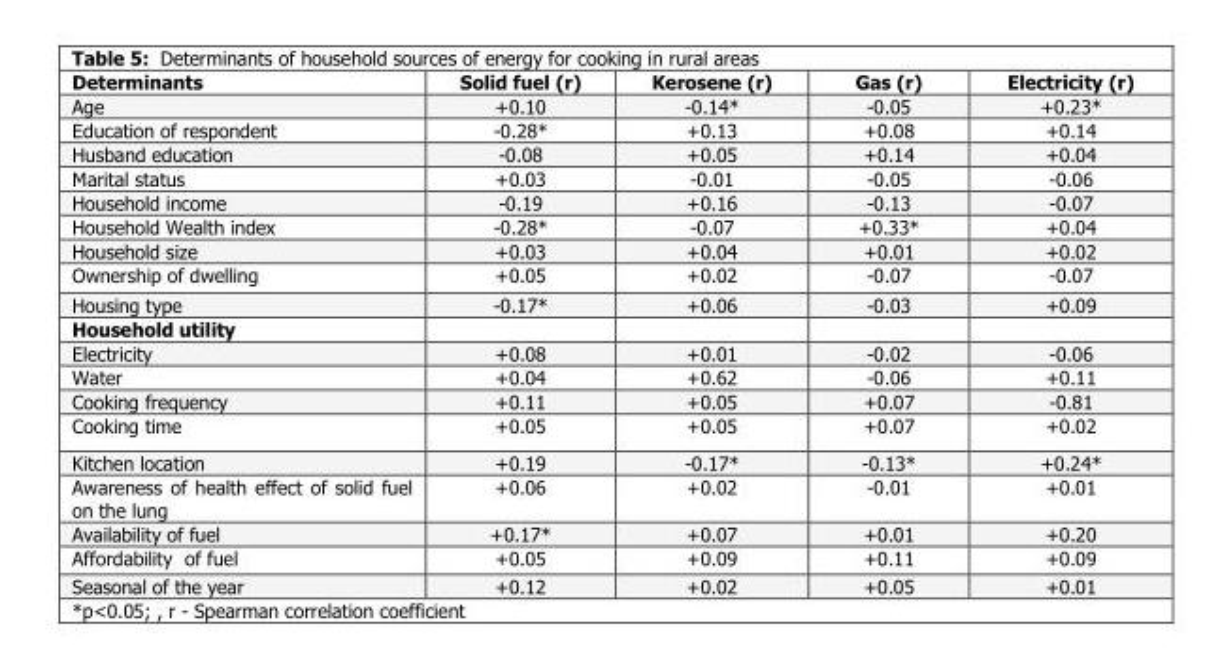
<table><thead><tr><td>Determinants</td><td>Solid fuel (r)</td><td>Kerosene (r)</td><td>Gas (r)</td><td>Electricity (r)</td></tr></thead><tbody><tr><td>Age</td><td>+0.10</td><td>-0.14*</td><td>-0.05</td><td>+0.23*</td></tr><tr><td>Education of respondent</td><td>-0.28*</td><td>+0.13</td><td>+0.08</td><td>+0.14</td></tr><tr><td>Husband education</td><td>-0.08</td><td>+0.05</td><td>+0.14</td><td>+0.04</td></tr><tr><td>Marital status</td><td>+0.03</td><td>-0.01</td><td>-0.05</td><td>-0.06</td></tr><tr><td>Household income</td><td>-0.19</td><td>+0.16</td><td>-0.13</td><td>-0.07</td></tr><tr><td>Household Wealth index</td><td>-0.28*</td><td>-0.07</td><td>+0.33*</td><td>+0.04</td></tr><tr><td>Household size</td><td>+0.03</td><td>+0.04</td><td>+0.01</td><td>+0.02</td></tr><tr><td>Ownership of dwelling</td><td>+0.05</td><td>+0.02</td><td>-0.07</td><td>-0.07</td></tr><tr><td>Housing type</td><td>-0.17*</td><td>+0.06</td><td>-0.03</td><td>+0.09</td></tr><tr><td colspan="5">Household utility</td></tr><tr><td>Electricity</td><td>+0.08</td><td>+0.01</td><td>-0.02</td><td>-0.06</td></tr><tr><td>Water</td><td>+0.04</td><td>+0.62</td><td>-0.06</td><td>+0.11</td></tr><tr><td>Cooking frequency</td><td>+0.11</td><td>+0.05</td><td>+0.07</td><td>-0.81</td></tr><tr><td>Cooking time</td><td>+0.05</td><td>+0.05</td><td>+0.07</td><td>+0.02</td></tr><tr><td>Kitchen location</td><td>+0.19</td><td>-0.17*</td><td>-0.13*</td><td>+0.24*</td></tr><tr><td>Awareness of health effect of solid fuel on the lung</td><td>+0.06</td><td>+0.02</td><td>-0.01</td><td>+0.01</td></tr><tr><td>Availability of fuel</td><td>+0.17*</td><td>+0.07</td><td>+0.01</td><td>+0.20</td></tr><tr><td>Affordability of fuel</td><td>+0.05</td><td>+0.09</td><td>+0.11</td><td>+0.09</td></tr><tr><td>Seasonal of the year</td><td>+0.12</td><td>+0.02</td><td>+0.05</td><td>+0.01</td></tr></tbody></table>